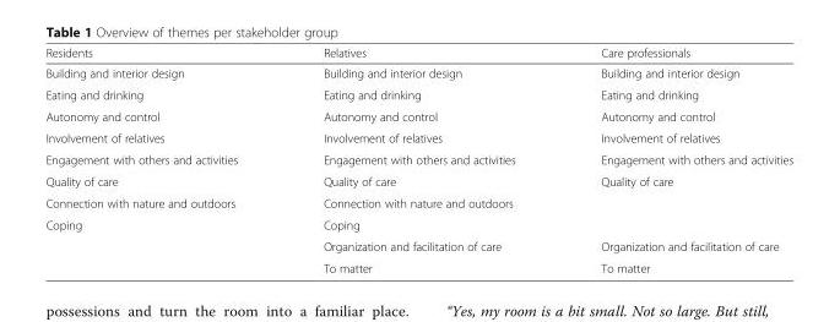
<table><thead><tr><td>Residents</td><td>Relatives</td><td>Care professionals</td></tr></thead><tbody><tr><td>Building and interior design</td><td>Building and interior design</td><td>Building and interior design</td></tr><tr><td>Eating and drinking</td><td>Eating and drinking</td><td>Eating and drinking</td></tr><tr><td>Autonomy and control</td><td>Autonomy and control</td><td>Autonomy and control</td></tr><tr><td>Involvement of relatives</td><td>Involvement of relatives</td><td>Involvement of relatives</td></tr><tr><td>Engagement with others and activities</td><td>Engagement with others and activities</td><td>Engagement with others and activities</td></tr><tr><td>Quality of care</td><td>Quality of care</td><td>Quality of care</td></tr><tr><td>Connection with nature and outdoors</td><td>Connection with nature and outdoors</td><td></td></tr><tr><td rowspan="3">Coping</td><td>Coping</td><td></td></tr><tr><td>Organization and facilitation of care</td><td>Organization and facilitation of care</td></tr><tr><td>To matter</td><td>To matter</td></tr></tbody></table>